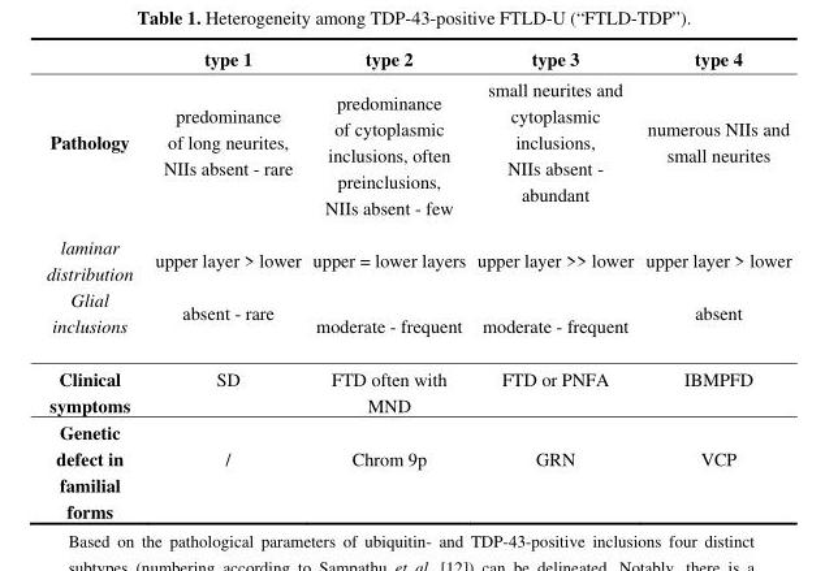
<table><thead><tr><td></td><td>type 1</td><td>type 2</td><td>type 3</td><td>type 4</td></tr></thead><tbody><tr><td>Pathology</td><td>predominance of long neurites, NIIs absent - rare</td><td>predominance of cytoplasmic inclusions, often preinclusions, NIIs absent - few</td><td>small neurites and cytoplasmic inclusions, NIIs absent - abundant</td><td>numerous NIIs and small neurites</td></tr><tr><td>laminar distribution</td><td>upper layer &gt; lower</td><td>upper = lower layers</td><td>upper layer &gt;&gt; lower</td><td>upper layer &gt; lower</td></tr><tr><td>Glial inclusions</td><td>absent - rare</td><td>moderate - frequent</td><td>moderate - frequent</td><td>absent</td></tr><tr><td>Clinical symptoms</td><td>SD</td><td>FTD often with MND</td><td>FTD or PNFA</td><td>IBMPFD</td></tr><tr><td>Genetic defect in familial forms</td><td>/</td><td>Chrom 9p</td><td>GRN</td><td>VCP</td></tr></tbody></table>